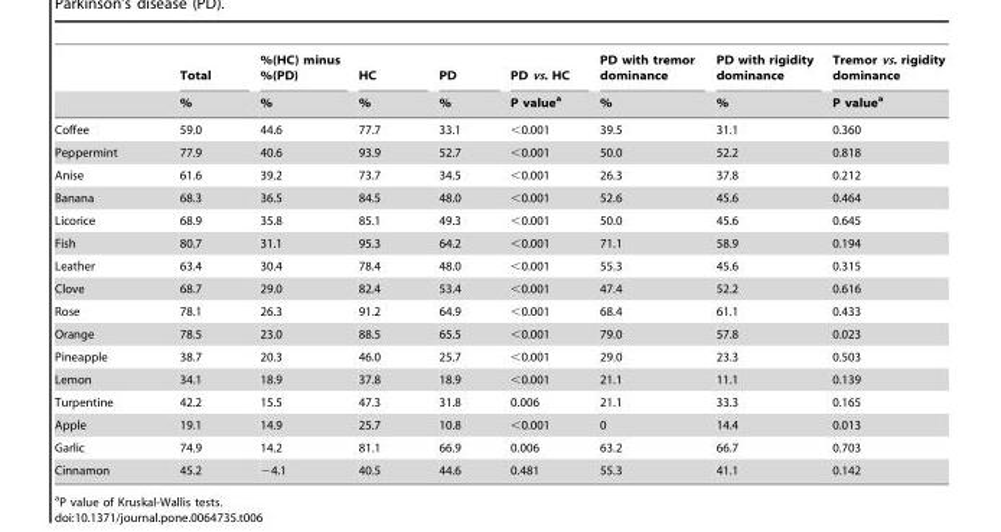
<table><thead><tr><td rowspan="2"></td><td rowspan="2">Total %</td><td rowspan="2">%(HC) minus %(PD) %</td><td rowspan="2">HC %</td><td rowspan="2">PD %</td><td rowspan="2">PD vs. HC P value<sup>a</sup></td><td rowspan="2">PD with tremor dominance %</td><td rowspan="2">PD with rigidity dominance %</td><td rowspan="2">Tremor vs. rigidity dominance P value<sup>a</sup></td></tr><tr></tr></thead><tbody><tr><td>Coffee</td><td>59.0</td><td>44.6</td><td>77.7</td><td>33.1</td><td>&lt;0.001</td><td>39.5</td><td>31.1</td><td>0.360</td></tr><tr><td>Peppermint</td><td>77.9</td><td>40.6</td><td>93.9</td><td>52.7</td><td>&lt;0.001</td><td>50.0</td><td>52.2</td><td>0.818</td></tr><tr><td>Anise</td><td>61.6</td><td>39.2</td><td>73.7</td><td>34.5</td><td>&lt;0.001</td><td>26.3</td><td>37.8</td><td>0.212</td></tr><tr><td>Banana</td><td>68.3</td><td>36.5</td><td>84.5</td><td>48.0</td><td>&lt;0.001</td><td>52.6</td><td>45.6</td><td>0.464</td></tr><tr><td>Licorice</td><td>68.9</td><td>35.8</td><td>85.1</td><td>49.3</td><td>&lt;0.001</td><td>50.0</td><td>45.6</td><td>0.645</td></tr><tr><td>Fish</td><td>80.7</td><td>31.1</td><td>95.3</td><td>64.2</td><td>&lt;0.001</td><td>71.1</td><td>58.9</td><td>0.194</td></tr><tr><td>Leather</td><td>63.4</td><td>30.4</td><td>78.4</td><td>48.0</td><td>&lt;0.001</td><td>55.3</td><td>45.6</td><td>0.315</td></tr><tr><td>Clove</td><td>68.7</td><td>29.0</td><td>82.4</td><td>53.4</td><td>&lt;0.001</td><td>47.4</td><td>52.2</td><td>0.616</td></tr><tr><td>Rose</td><td>78.1</td><td>26.3</td><td>91.2</td><td>64.9</td><td>&lt;0.001</td><td>68.4</td><td>61.1</td><td>0.433</td></tr><tr><td>Orange</td><td>78.5</td><td>23.0</td><td>88.5</td><td>65.5</td><td>&lt;0.001</td><td>79.0</td><td>57.8</td><td>0.023</td></tr><tr><td>Pineapple</td><td>38.7</td><td>20.3</td><td>46.0</td><td>25.7</td><td>&lt;0.001</td><td>29.0</td><td>23.3</td><td>0.503</td></tr><tr><td>Lemon</td><td>34.1</td><td>18.9</td><td>37.8</td><td>18.9</td><td>&lt;0.001</td><td>21.1</td><td>11.1</td><td>0.139</td></tr><tr><td>Turpentine</td><td>42.2</td><td>15.5</td><td>47.3</td><td>31.8</td><td>0.006</td><td>21.1</td><td>33.3</td><td>0.165</td></tr><tr><td>Apple</td><td>19.1</td><td>14.9</td><td>25.7</td><td>10.8</td><td>&lt;0.001</td><td>0</td><td>14.4</td><td>0.013</td></tr><tr><td>Garlic</td><td>74.9</td><td>14.2</td><td>81.1</td><td>66.9</td><td>0.006</td><td>63.2</td><td>66.7</td><td>0.703</td></tr><tr><td>Cinnamon</td><td>45.2</td><td>−4.1</td><td>40.5</td><td>44.6</td><td>0.481</td><td>55.3</td><td>41.1</td><td>0.142</td></tr></tbody></table>